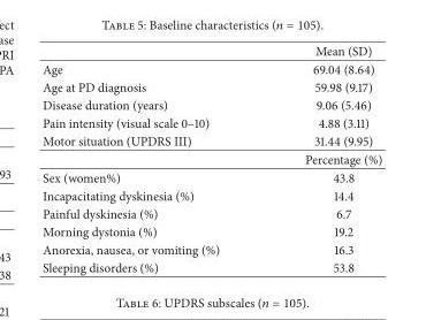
<table><thead><tr><td></td><td>Mean (SD)</td></tr></thead><tbody><tr><td>Age</td><td>69.04 (8.64)</td></tr><tr><td>Age at PD diagnosis</td><td>59.98 (9.17)</td></tr><tr><td>Disease duration (years)</td><td>9.06 (5.46)</td></tr><tr><td>Pain intensity (visual scale 0–10)</td><td>4.88 (3.11)</td></tr><tr><td rowspan="2">Motor situation (UPDRS III)</td><td>31.44 (9.95)</td></tr><tr><td>Percentage (%)</td></tr><tr><td>Sex (women%)</td><td>43.8</td></tr><tr><td>Incapacitating dyskinesia (%)</td><td>14.4</td></tr><tr><td>Painful dyskinesia (%)</td><td>6.7</td></tr><tr><td>Morning dystonia (%)</td><td>19.2</td></tr><tr><td>Anorexia, nausea, or vomiting (%)</td><td>16.3</td></tr><tr><td>Sleeping disorders (%)</td><td>53.8</td></tr></tbody></table>